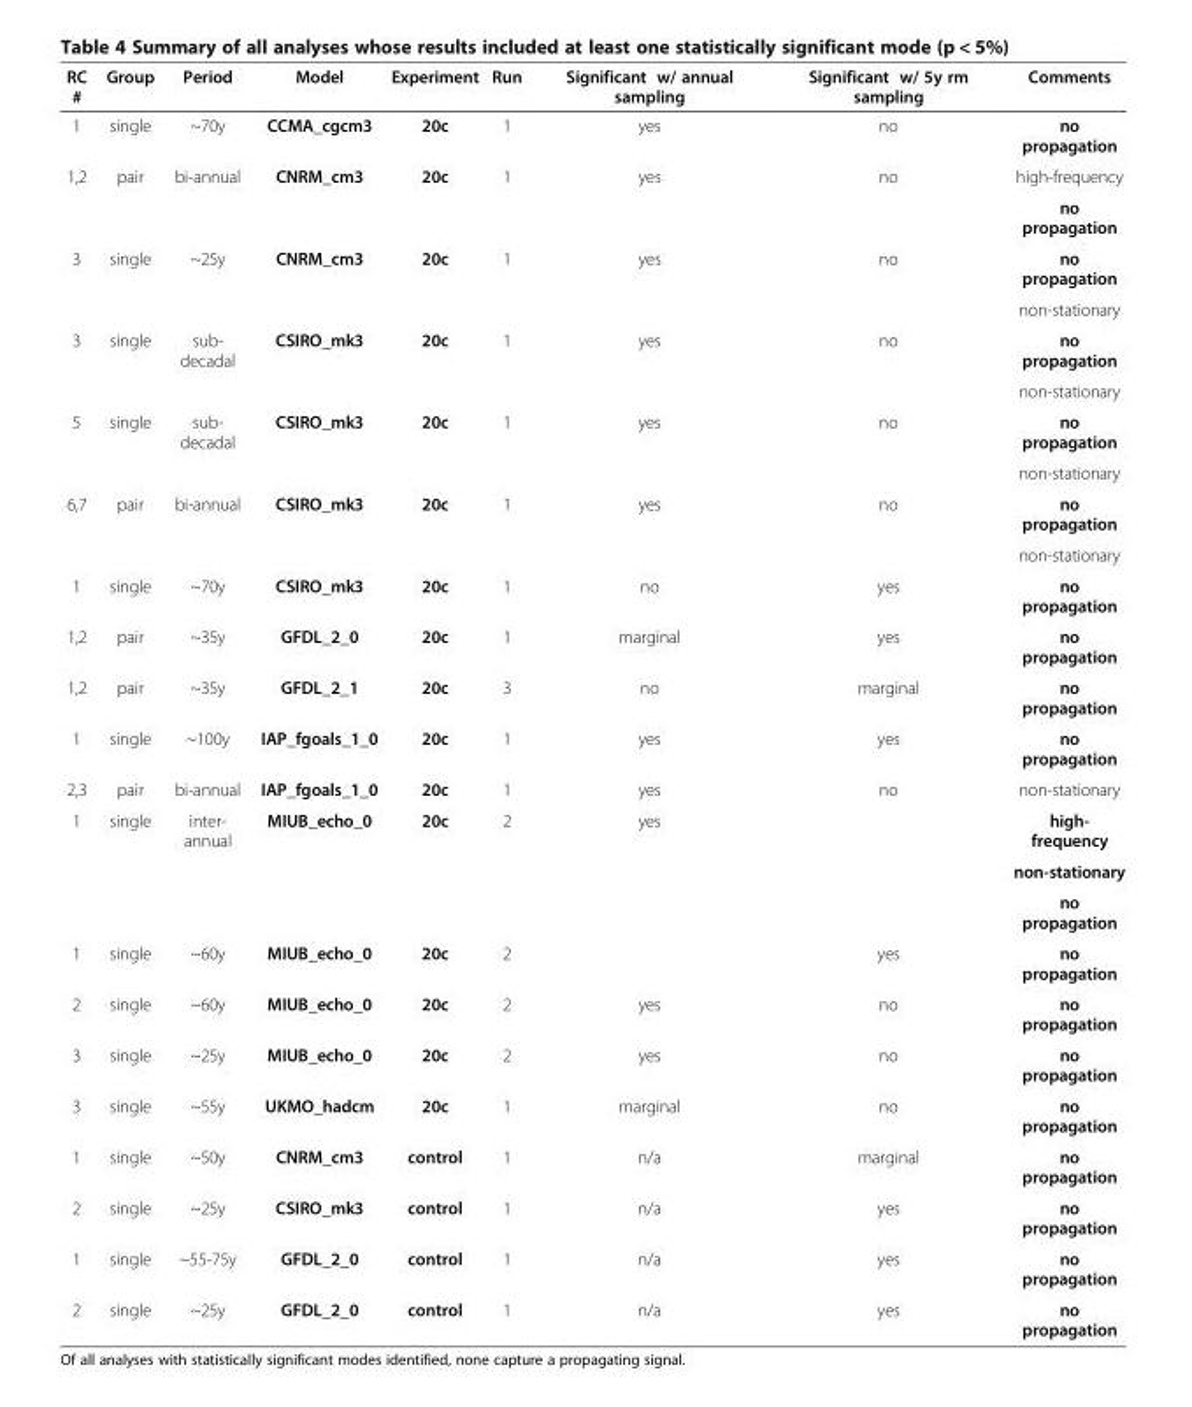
<table><thead><tr><td>RC #</td><td>Group</td><td>Period</td><td>Model</td><td>Experiment</td><td>Run</td><td>Significant w/ annual sampling</td><td>Significant w/ 5y rm sampling</td><td>Comments</td></tr></thead><tbody><tr><td>1</td><td>single</td><td>~70y</td><td>CCMA_cgcm3</td><td>20c</td><td>1</td><td>yes</td><td>no</td><td>no propagation</td></tr><tr><td rowspan="2">1,2</td><td rowspan="2">pair</td><td rowspan="2">bi-annual</td><td rowspan="2">CNRM_cm3</td><td rowspan="2">20c</td><td rowspan="2">1</td><td rowspan="2">yes</td><td rowspan="2">no</td><td>high-frequency</td></tr><tr><td>no propagation</td></tr><tr><td rowspan="2">3</td><td rowspan="2">single</td><td rowspan="2">~25y</td><td rowspan="2">CNRM_cm3</td><td rowspan="2">20c</td><td rowspan="2">1</td><td rowspan="2">yes</td><td rowspan="2">no</td><td>no propagation</td></tr><tr><td>non-stationary</td></tr><tr><td rowspan="2">3</td><td rowspan="2">single</td><td rowspan="2">sub- decadal</td><td rowspan="2">CSIRO_mk3</td><td rowspan="2">20c</td><td rowspan="2">1</td><td rowspan="2">yes</td><td rowspan="2">no</td><td>no propagation</td></tr><tr><td>non-stationary</td></tr><tr><td rowspan="2">5</td><td rowspan="2">single</td><td rowspan="2">sub- decadal</td><td rowspan="2">CSIRO_mk3</td><td rowspan="2">20c</td><td rowspan="2">1</td><td rowspan="2">yes</td><td rowspan="2">no</td><td>no propagation</td></tr><tr><td>non-stationary</td></tr><tr><td rowspan="2">6,7</td><td rowspan="2">pair</td><td rowspan="2">bi-annual</td><td rowspan="2">CSIRO_mk3</td><td rowspan="2">20c</td><td rowspan="2">1</td><td rowspan="2">yes</td><td rowspan="2">no</td><td>no propagation</td></tr><tr><td>non-stationary</td></tr><tr><td>1</td><td>single</td><td>~70y</td><td>CSIRO_mk3</td><td>20c</td><td>1</td><td>no</td><td>yes</td><td>no propagation</td></tr><tr><td>1,2</td><td>pair</td><td>~35y</td><td>GFDL_2_0</td><td>20c</td><td>1</td><td>marginal</td><td>yes</td><td>no propagation</td></tr><tr><td>1,2</td><td>pair</td><td>~35y</td><td>GFDL_2_1</td><td>20c</td><td>3</td><td>no</td><td>marginal</td><td>no propagation</td></tr><tr><td>1</td><td>single</td><td>~100y</td><td>IAP_fgoals_1_0</td><td>20c</td><td>1</td><td>yes</td><td>yes</td><td>no propagation</td></tr><tr><td>2,3</td><td>pair</td><td>bi-annual</td><td>IAP_fgoals_1_0</td><td>20c</td><td>1</td><td>yes</td><td>no</td><td>non-stationary</td></tr><tr><td rowspan="3">1</td><td rowspan="3">single</td><td rowspan="3">inter- annual</td><td rowspan="3">MIUB_echo_0</td><td rowspan="3">20c</td><td rowspan="3">2</td><td rowspan="3">yes</td><td rowspan="3"></td><td>high- frequency</td></tr><tr><td>non-stationary</td></tr><tr><td>no propagation</td></tr><tr><td>1</td><td>single</td><td>~60y</td><td>MIUB_echo_0</td><td>20c</td><td>2</td><td></td><td>yes</td><td>no propagation</td></tr><tr><td>2</td><td>single</td><td>~60y</td><td>MIUB_echo_0</td><td>20c</td><td>2</td><td>yes</td><td>no</td><td>no propagation</td></tr><tr><td>3</td><td>single</td><td>~25y</td><td>MIUB_echo_0</td><td>20c</td><td>2</td><td>yes</td><td>no</td><td>no propagation</td></tr><tr><td>3</td><td>single</td><td>~55y</td><td>UKMO_hadcm</td><td>20c</td><td>1</td><td>marginal</td><td>no</td><td>no propagation</td></tr><tr><td>1</td><td>single</td><td>~50y</td><td>CNRM_cm3</td><td>control</td><td>1</td><td>n/a</td><td>marginal</td><td>no propagation</td></tr><tr><td>2</td><td>single</td><td>~25y</td><td>CSIRO_mk3</td><td>control</td><td>1</td><td>n/a</td><td>yes</td><td>no propagation</td></tr><tr><td>1</td><td>single</td><td>~55-75y</td><td>GFDL_2_0</td><td>control</td><td>1</td><td>n/a</td><td>yes</td><td>no propagation</td></tr><tr><td>2</td><td>single</td><td>~25y</td><td>GFDL_2_0</td><td>control</td><td>1</td><td>n/a</td><td>yes</td><td>no propagation</td></tr></tbody></table>